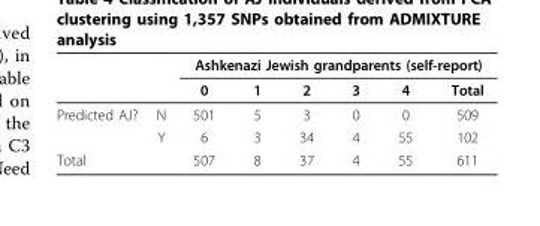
<table><thead><tr><td rowspan="2"></td><td rowspan="2"></td><td colspan="6">Ashkenazi Jewish grandparents (self-report)</td></tr><tr><td>0</td><td>1</td><td>2</td><td>3</td><td>4</td><td>Total</td></tr></thead><tbody><tr><td rowspan="2">Predicted AJ?</td><td>N</td><td>501</td><td>5</td><td>3</td><td>0</td><td>0</td><td>509</td></tr><tr><td>Y</td><td>6</td><td>3</td><td>34</td><td>4</td><td>55</td><td>102</td></tr><tr><td>Total</td><td></td><td>507</td><td>8</td><td>37</td><td>4</td><td>55</td><td>611</td></tr></tbody></table>